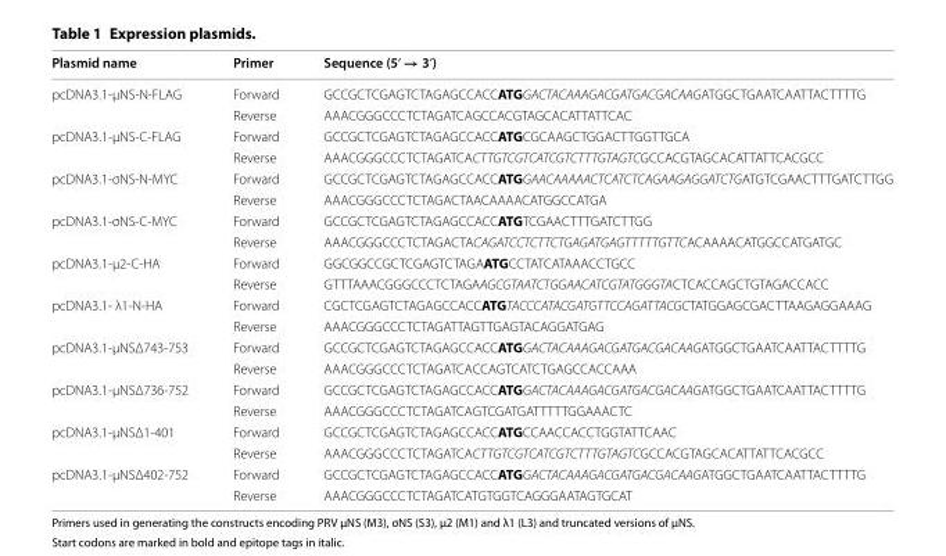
<table><thead><tr><td>Plasmid name</td><td>Primer</td><td>Sequence (5ʹ → 3ʹ)</td></tr></thead><tbody><tr><td rowspan="2">pcDNA3.1-μNS-N-FLAG</td><td>Forward</td><td>GCCGCTCGAGTCTAGAGCCACCATGGACTACAAAGACGATGACGACAAGATGGCTGAATCAATTACTTTTG</td></tr><tr><td>Reverse</td><td>AAACGGGCCCTCTAGATCAGCCACGTAGCACATTATTCAC</td></tr><tr><td rowspan="2">pcDNA3.1-μNS-C-FLAG</td><td>Forward</td><td>GCCGCTCGAGTCTAGAGCCACCATGCGCAAGCTGGACTTGGTTGCA</td></tr><tr><td>Reverse</td><td>AAACGGGCCCTCTAGATCACTTGTCGTCATCGTCTTTGTAGTCGCCACGTAGCACATTATTCACGCC</td></tr><tr><td rowspan="2">pcDNA3.1-σNS-N-MYC</td><td>Forward</td><td>GCCGCTCGAGTCTAGAGCCACCATGGAACAAAAACTCATCTCAGAAGAGGATCTGATGTCGAACTTTGATCTTGG</td></tr><tr><td>Reverse</td><td>AAACGGGCCCTCTAGACTAACAAAACATGGCCATGA</td></tr><tr><td rowspan="2">pcDNA3.1-σNS-C-MYC</td><td>Forward</td><td>GCCGCTCGAGTCTAGAGCCACCATGTCGAACTTTGATCTTGG</td></tr><tr><td>Reverse</td><td>AAACGGGCCCTCTAGACTACAGATCCTCTTCTGAGATGAGTTTTTGTTCACAAAACATGGCCATGATGC</td></tr><tr><td rowspan="2">pcDNA3.1-μ2-C-HA</td><td>Forward</td><td>GGCGGCCGCTCGAGTCTAGAATGCCTATCATAAACCTGCC</td></tr><tr><td>Reverse</td><td>GTTTAAACGGGCCCTCTAGAAGCGTAATCTGGAACATCGTATGGGTACTCACCAGCTGTAGACCACC</td></tr><tr><td rowspan="2">pcDNA3.1- λ1-N-HA</td><td>Forward</td><td>CGCTCGAGTCTAGAGCCACCATGTACCCATACGATGTTCCAGATTACGCTATGGAGCGACTTAAGAGGAAAG</td></tr><tr><td>Reverse</td><td>AAACGGGCCCTCTAGATTAGTTGAGTACAGGATGAG</td></tr><tr><td rowspan="2">pcDNA3.1-μNSΔ743-753</td><td>Forward</td><td>GCCGCTCGAGTCTAGAGCCACCATGGACTACAAAGACGATGACGACAAGATGGCTGAATCAATTACTTTTG</td></tr><tr><td>Reverse</td><td>AAACGGGCCCTCTAGATCACCAGTCATCTGAGCCACCAAA</td></tr><tr><td rowspan="2">pcDNA3.1-μNSΔ736-752</td><td>Forward</td><td>GCCGCTCGAGTCTAGAGCCACCATGGACTACAAAGACGATGACGACAAGATGGCTGAATCAATTACTTTTG</td></tr><tr><td>Reverse</td><td>AAACGGGCCCTCTAGATCAGTCGATGATTTTTGGAAACTC</td></tr><tr><td rowspan="2">pcDNA3.1-μNSΔ1-401</td><td>Forward</td><td>GCCGCTCGAGTCTAGAGCCACCATGCCAACCACCTGGTATTCAAC</td></tr><tr><td>Reverse</td><td>AAACGGGCCCTCTAGATCACTTGTCGTCATCGTCTTTGTAGTCGCCACGTAGCACATTATTCACGCC</td></tr><tr><td rowspan="2">pcDNA3.1-μNSΔ402-752</td><td>Forward</td><td>GCCGCTCGAGTCTAGAGCCACCATGGACTACAAAGACGATGACGACAAGATGGCTGAATCAATTACTTTTG</td></tr><tr><td>Reverse</td><td>AAACGGGCCCTCTAGATCATGTGGTCAGGGAATAGTGCAT</td></tr></tbody></table>